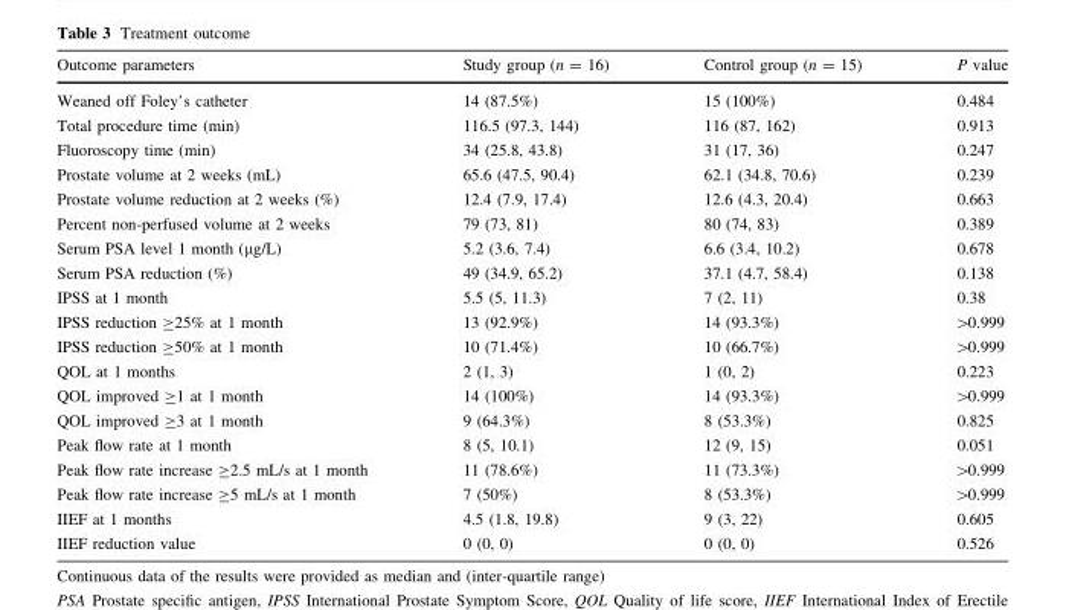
<table><thead><tr><td>Outcome parameters</td><td>Study group (n = 16)</td><td>Control group (n = 15)</td><td>P value</td></tr></thead><tbody><tr><td>Weaned off Foley’s catheter</td><td>14 (87.5%)</td><td>15 (100%)</td><td>0.484</td></tr><tr><td>Total procedure time (min)</td><td>116.5 (97.3, 144)</td><td>116 (87, 162)</td><td>0.913</td></tr><tr><td>Fluoroscopy time (min)</td><td>34 (25.8, 43.8)</td><td>31 (17, 36)</td><td>0.247</td></tr><tr><td>Prostate volume at 2 weeks (mL)</td><td>65.6 (47.5, 90.4)</td><td>62.1 (34.8, 70.6)</td><td>0.239</td></tr><tr><td>Prostate volume reduction at 2 weeks (%)</td><td>12.4 (7.9, 17.4)</td><td>12.6 (4.3, 20.4)</td><td>0.663</td></tr><tr><td>Percent non-perfused volume at 2 weeks</td><td>79 (73, 81)</td><td>80 (74, 83)</td><td>0.389</td></tr><tr><td>Serum PSA level 1 month (μg/L)</td><td>5.2 (3.6, 7.4)</td><td>6.6 (3.4, 10.2)</td><td>0.678</td></tr><tr><td>Serum PSA reduction (%)</td><td>49 (34.9, 65.2)</td><td>37.1 (4.7, 58.4)</td><td>0.138</td></tr><tr><td>IPSS at 1 month</td><td>5.5 (5, 11.3)</td><td>7 (2, 11)</td><td>0.38</td></tr><tr><td>IPSS reduction ≥25% at 1 month</td><td>13 (92.9%)</td><td>14 (93.3%)</td><td>&gt;0.999</td></tr><tr><td>IPSS reduction ≥50% at 1 month</td><td>10 (71.4%)</td><td>10 (66.7%)</td><td>&gt;0.999</td></tr><tr><td>QOL at 1 months</td><td>2 (1, 3)</td><td>1 (0, 2)</td><td>0.223</td></tr><tr><td>QOL improved ≥1 at 1 month</td><td>14 (100%)</td><td>14 (93.3%)</td><td>&gt;0.999</td></tr><tr><td>QOL improved ≥3 at 1 month</td><td>9 (64.3%)</td><td>8 (53.3%)</td><td>0.825</td></tr><tr><td>Peak flow rate at 1 month</td><td>8 (5, 10.1)</td><td>12 (9, 15)</td><td>0.051</td></tr><tr><td>Peak flow rate increase ≥2.5 mL/s at 1 month</td><td>11 (78.6%)</td><td>11 (73.3%)</td><td>&gt;0.999</td></tr><tr><td>Peak flow rate increase ≥5 mL/s at 1 month</td><td>7 (50%)</td><td>8 (53.3%)</td><td>&gt;0.999</td></tr><tr><td>IIEF at 1 months</td><td>4.5 (1.8, 19.8)</td><td>9 (3, 22)</td><td>0.605</td></tr><tr><td>IIEF reduction value</td><td>0 (0, 0)</td><td>0 (0, 0)</td><td>0.526</td></tr></tbody></table>